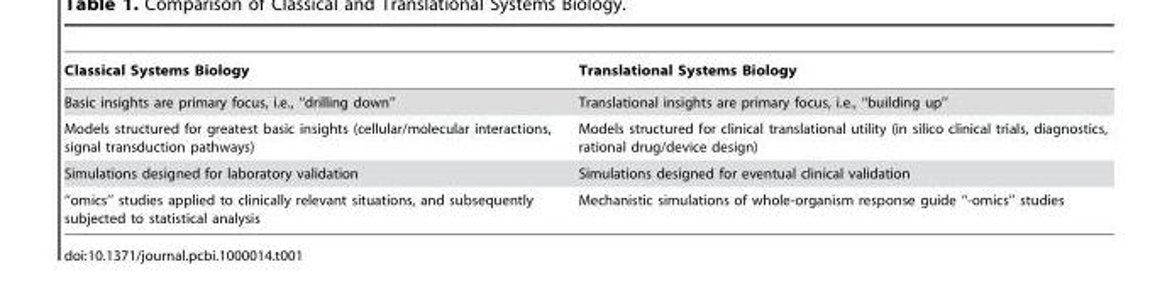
<table><thead><tr><td>Classical Systems Biology</td><td>Translational Systems Biology</td></tr></thead><tbody><tr><td>Basic insights are primary focus, i.e., ‘‘drilling down’’</td><td>Translational insights are primary focus, i.e., ‘‘building up’’</td></tr><tr><td>Models structured for greatest basic insights (cellular/molecular interactions, signal transduction pathways)</td><td>Models structured for clinical translational utility (in silico clinical trials, diagnostics, rational drug/device design)</td></tr><tr><td>Simulations designed for laboratory validation</td><td>Simulations designed for eventual clinical validation</td></tr><tr><td>‘‘omics’’ studies applied to clinically relevant situations, and subsequently subjected to statistical analysis</td><td>Mechanistic simulations of whole-organism response guide ‘‘-omics’’ studies</td></tr></tbody></table>